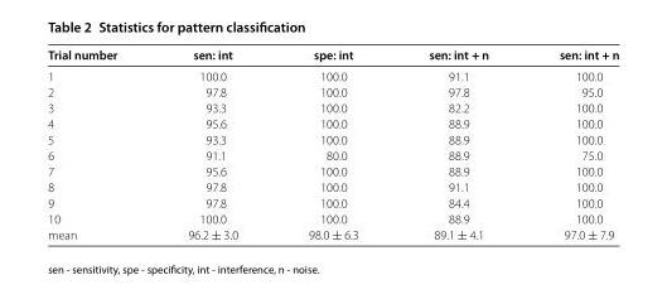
<table><thead><tr><td>Trial number</td><td>sen: int</td><td>spe: int</td><td>sen: int + n</td><td>sen: int + n</td></tr></thead><tbody><tr><td>1</td><td>100.0</td><td>100.0</td><td>91.1</td><td>100.0</td></tr><tr><td>2</td><td>97.8</td><td>100.0</td><td>97.8</td><td>95.0</td></tr><tr><td>3</td><td>93.3</td><td>100.0</td><td>82.2</td><td>100.0</td></tr><tr><td>4</td><td>95.6</td><td>100.0</td><td>88.9</td><td>100.0</td></tr><tr><td>5</td><td>93.3</td><td>100.0</td><td>88.9</td><td>100.0</td></tr><tr><td>6</td><td>91.1</td><td>80.0</td><td>88.9</td><td>75.0</td></tr><tr><td>7</td><td>95.6</td><td>100.0</td><td>88.9</td><td>100.0</td></tr><tr><td>8</td><td>97.8</td><td>100.0</td><td>91.1</td><td>100.0</td></tr><tr><td>9</td><td>97.8</td><td>100.0</td><td>84.4</td><td>100.0</td></tr><tr><td>10</td><td>100.0</td><td>100.0</td><td>88.9</td><td>100.0</td></tr><tr><td>mean</td><td>96.2 ± 3.0</td><td>98.0 ± 6.3</td><td>89.1 ± 4.1</td><td>97.0 ± 7.9</td></tr></tbody></table>